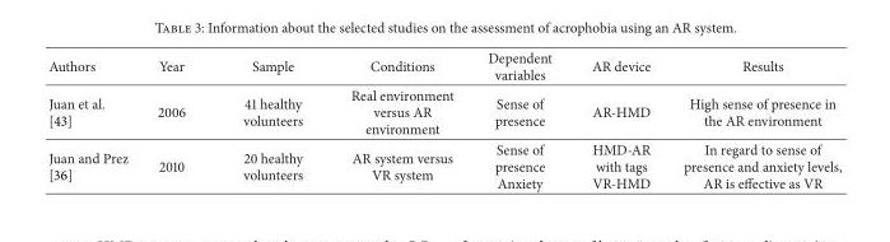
<table><thead><tr><td>Authors</td><td>Year</td><td>Sample</td><td>Conditions</td><td>Dependent variables</td><td>AR device</td><td>Results</td></tr></thead><tbody><tr><td>Juan et al. [43]</td><td>2006</td><td>41 healthy volunteers</td><td>Real environment versus AR environment</td><td>Sense of presence</td><td>AR-HMD</td><td>High sense of presence in the AR environment</td></tr><tr><td>Juan and Prez [36]</td><td>2010</td><td>20 healthy volunteers</td><td>AR system versus VR system</td><td>Sense of presence Anxiety</td><td>HMD-AR with tags VR-HMD</td><td>In regard to sense of presence and anxiety levels, AR is effective as VR</td></tr></tbody></table>